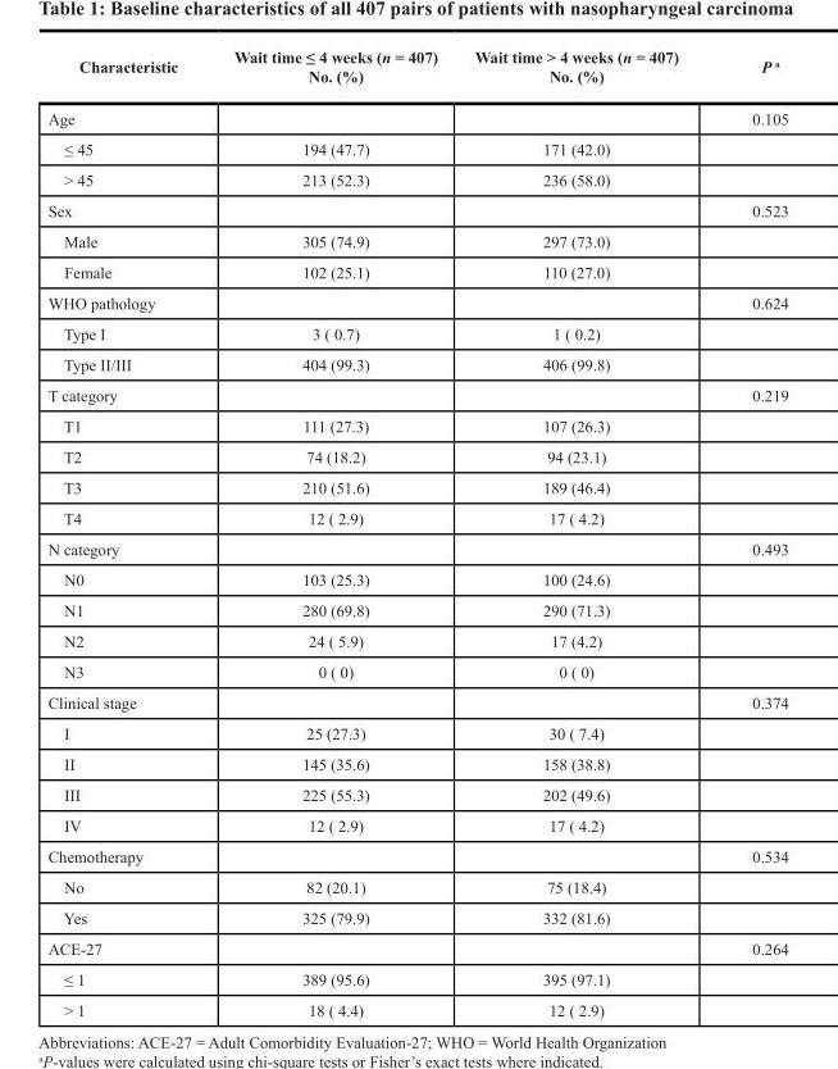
<table><thead><tr><td>Characteristic</td><td>Wait time ≤ 4 weeks (n = 407) No. (%)</td><td>Wait time &gt; 4 weeks (n = 407) No. (%)</td><td>P <sup>a</sup></td></tr></thead><tbody><tr><td>Age</td><td></td><td></td><td>0.105</td></tr><tr><td>≤ 45</td><td>194 (47.7)</td><td>171 (42.0)</td><td></td></tr><tr><td>&gt; 45</td><td>213 (52.3)</td><td>236 (58.0)</td><td></td></tr><tr><td>Sex</td><td></td><td></td><td>0.523</td></tr><tr><td>Male</td><td>305 (74.9)</td><td>297 (73.0)</td><td></td></tr><tr><td>Female</td><td>102 (25.1)</td><td>110 (27.0)</td><td></td></tr><tr><td>WHO pathology</td><td></td><td></td><td>0.624</td></tr><tr><td>Type I</td><td>3 ( 0.7)</td><td>1 ( 0.2)</td><td></td></tr><tr><td>Type II/III</td><td>404 (99.3)</td><td>406 (99.8)</td><td></td></tr><tr><td>T category</td><td></td><td></td><td>0.219</td></tr><tr><td>T1</td><td>111 (27.3)</td><td>107 (26.3)</td><td></td></tr><tr><td>T2</td><td>74 (18.2)</td><td>94 (23.1)</td><td></td></tr><tr><td>T3</td><td>210 (51.6)</td><td>189 (46.4)</td><td></td></tr><tr><td>T4</td><td>12 ( 2.9)</td><td>17 ( 4.2)</td><td></td></tr><tr><td>N category</td><td></td><td></td><td>0.493</td></tr><tr><td>N0</td><td>103 (25.3)</td><td>100 (24.6)</td><td></td></tr><tr><td>N1</td><td>280 (69.8)</td><td>290 (71.3)</td><td></td></tr><tr><td>N2</td><td>24 ( 5.9)</td><td>17 (4.2)</td><td></td></tr><tr><td>N3</td><td>0 ( 0)</td><td>0 ( 0)</td><td></td></tr><tr><td>Clinical stage</td><td></td><td></td><td>0.374</td></tr><tr><td>I</td><td>25 (27.3)</td><td>30 ( 7.4)</td><td></td></tr><tr><td>II</td><td>145 (35.6)</td><td>158 (38.8)</td><td></td></tr><tr><td>III</td><td>225 (55.3)</td><td>202 (49.6)</td><td></td></tr><tr><td>IV</td><td>12 ( 2.9)</td><td>17 ( 4.2)</td><td></td></tr><tr><td>Chemotherapy</td><td></td><td></td><td>0.534</td></tr><tr><td>No</td><td>82 (20.1)</td><td>75 (18.4)</td><td></td></tr><tr><td>Yes</td><td>325 (79.9)</td><td>332 (81.6)</td><td></td></tr><tr><td>ACE-27</td><td></td><td></td><td>0.264</td></tr><tr><td>≤ 1</td><td>389 (95.6)</td><td>395 (97.1)</td><td></td></tr><tr><td>&gt; 1</td><td>18 ( 4.4)</td><td>12 ( 2.9)</td><td></td></tr></tbody></table>